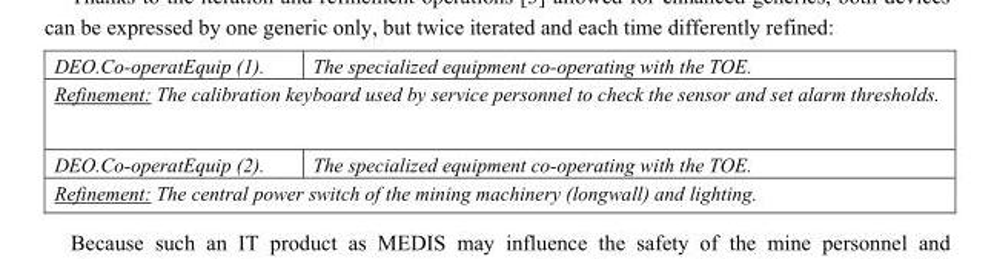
<table><tbody><tr><td>DEO.Co-operatEquip (1).</td><td>The specialized equipment co-operating with the TOE.</td></tr><tr><td colspan="2">Refinement: The calibration keyboard used by service personnel to check the sensor and set alarm thresholds.</td></tr><tr><td>DEO.Co-operatEquip (2).</td><td>The specialized equipment co-operating with the TOE.</td></tr><tr><td colspan="2">Refinement: The central power switch of the mining machinery (longwall) and lighting.</td></tr></tbody></table>